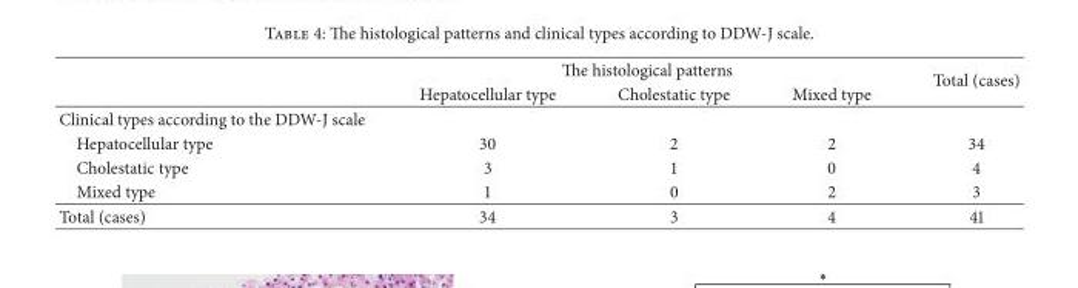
<table><thead><tr><td rowspan="2"></td><td colspan="3">The histological patterns</td><td rowspan="2">Total (cases)</td></tr><tr><td>Hepatocellular type</td><td>Cholestatic type</td><td>Mixed type</td></tr></thead><tbody><tr><td colspan="5">Clinical types according to the DDW-J scale</td></tr><tr><td>Hepatocellular type</td><td>30</td><td>2</td><td>2</td><td>34</td></tr><tr><td>Cholestatic type</td><td>3</td><td>1</td><td>0</td><td>4</td></tr><tr><td>Mixed type</td><td>1</td><td>0</td><td>2</td><td>3</td></tr><tr><td>Total (cases)</td><td>34</td><td>3</td><td>4</td><td>41</td></tr></tbody></table>